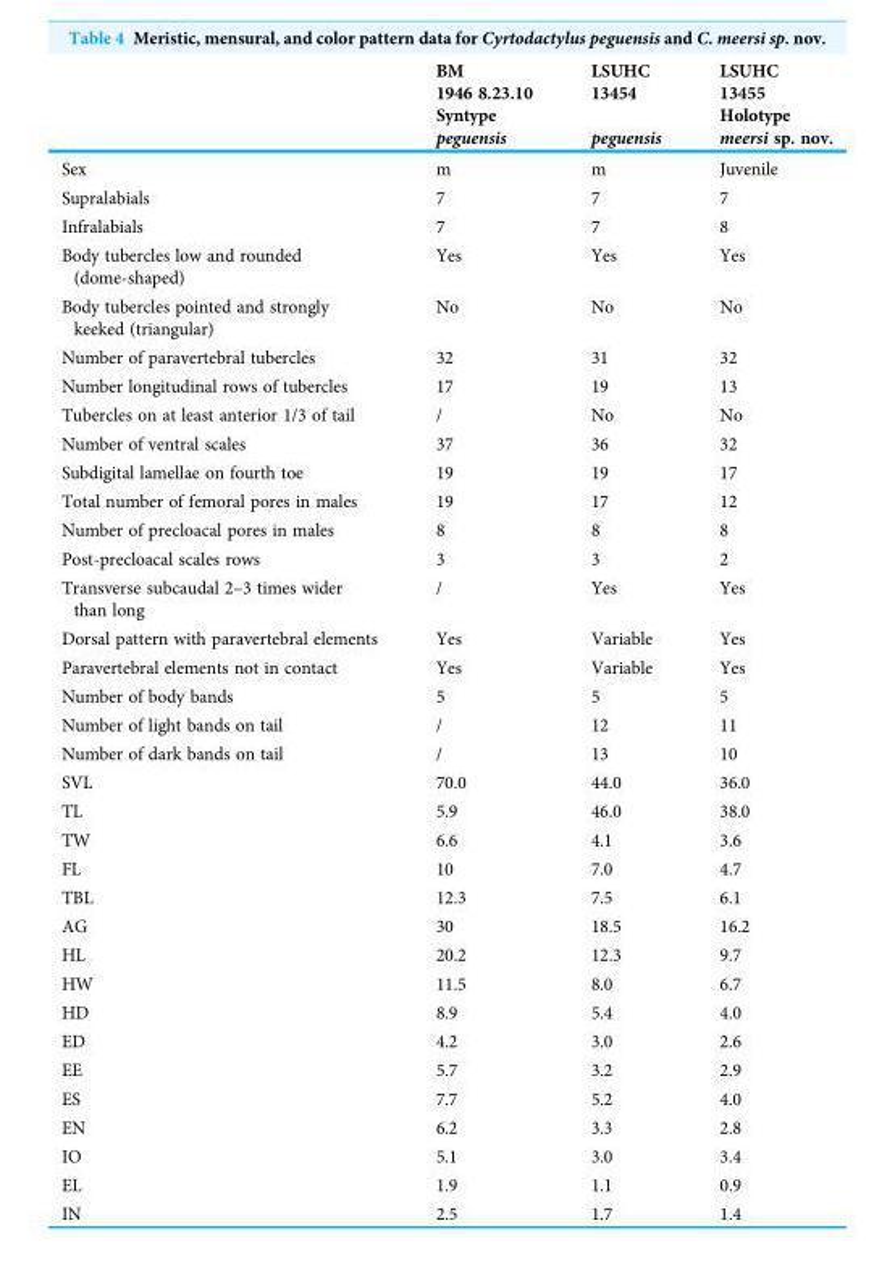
<table><thead><tr><td rowspan="4"></td><td rowspan="4">BM 1946 8.23.10 Syntype peguensis</td><td rowspan="4">LSUHC 13454 peguensis</td><td rowspan="4">LSUHC 13455 Holotype meersi sp. nov.</td></tr><tr></tr><tr></tr><tr></tr></thead><tbody><tr><td>Sex</td><td>m</td><td>m</td><td>Juvenile</td></tr><tr><td>Supralabials</td><td>7</td><td>7</td><td>7</td></tr><tr><td>Infralabials</td><td>7</td><td>7</td><td>8</td></tr><tr><td>Body tubercles low and rounded (dome-shaped)</td><td>Yes</td><td>Yes</td><td>Yes</td></tr><tr><td>Body tubercles pointed and strongly keeked (triangular)</td><td>No</td><td>No</td><td>No</td></tr><tr><td>Number of paravertebral tubercles</td><td>32</td><td>31</td><td>32</td></tr><tr><td>Number longitudinal rows of tubercles</td><td>17</td><td>19</td><td>13</td></tr><tr><td>Tubercles on at least anterior 1/3 of tail</td><td>/</td><td>No</td><td>No</td></tr><tr><td>Number of ventral scales</td><td>37</td><td>36</td><td>32</td></tr><tr><td>Subdigital lamellae on fourth toe</td><td>19</td><td>19</td><td>17</td></tr><tr><td>Total number of femoral pores in males</td><td>19</td><td>17</td><td>12</td></tr><tr><td>Number of precloacal pores in males</td><td>8</td><td>8</td><td>8</td></tr><tr><td>Post-precloacal scales rows</td><td>3</td><td>3</td><td>2</td></tr><tr><td>Transverse subcaudal 2–3 times wider than long</td><td>/</td><td>Yes</td><td>Yes</td></tr><tr><td>Dorsal pattern with paravertebral elements</td><td>Yes</td><td>Variable</td><td>Yes</td></tr><tr><td>Paravertebral elements not in contact</td><td>Yes</td><td>Variable</td><td>Yes</td></tr><tr><td>Number of body bands</td><td>5</td><td>5</td><td>5</td></tr><tr><td>Number of light bands on tail</td><td>/</td><td>12</td><td>11</td></tr><tr><td>Number of dark bands on tail</td><td>/</td><td>13</td><td>10</td></tr><tr><td>SVL</td><td>70.0</td><td>44.0</td><td>36.0</td></tr><tr><td>TL</td><td>5.9</td><td>46.0</td><td>38.0</td></tr><tr><td>TW</td><td>6.6</td><td>4.1</td><td>3.6</td></tr><tr><td>FL</td><td>10</td><td>7.0</td><td>4.7</td></tr><tr><td>TBL</td><td>12.3</td><td>7.5</td><td>6.1</td></tr><tr><td>AG</td><td>30</td><td>18.5</td><td>16.2</td></tr><tr><td>HL</td><td>20.2</td><td>12.3</td><td>9.7</td></tr><tr><td>HW</td><td>11.5</td><td>8.0</td><td>6.7</td></tr><tr><td>HD</td><td>8.9</td><td>5.4</td><td>4.0</td></tr><tr><td>ED</td><td>4.2</td><td>3.0</td><td>2.6</td></tr><tr><td>EE</td><td>5.7</td><td>3.2</td><td>2.9</td></tr><tr><td>ES</td><td>7.7</td><td>5.2</td><td>4.0</td></tr><tr><td>EN</td><td>6.2</td><td>3.3</td><td>2.8</td></tr><tr><td>IO</td><td>5.1</td><td>3.0</td><td>3.4</td></tr><tr><td>EL</td><td>1.9</td><td>1.1</td><td>0.9</td></tr><tr><td>IN</td><td>2.5</td><td>1.7</td><td>1.4</td></tr></tbody></table>